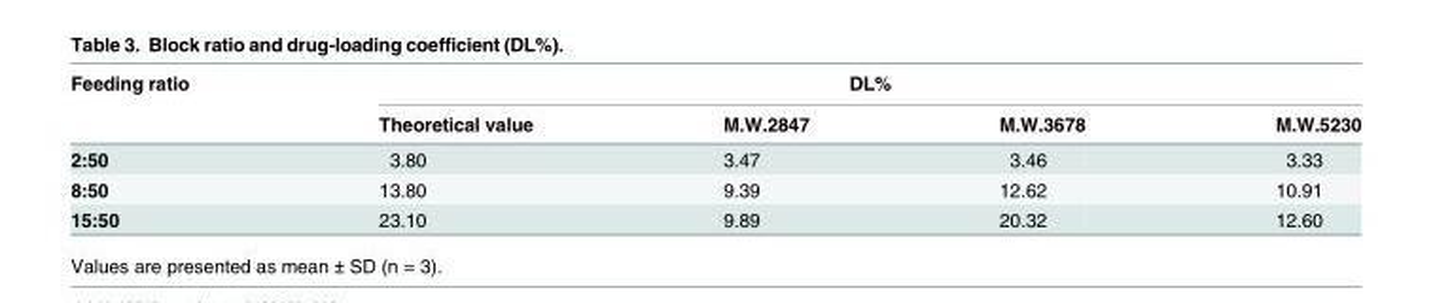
<table><thead><tr><td rowspan="2">Feeding ratio</td><td colspan="4">DL%</td></tr><tr><td>Theoretical value</td><td>M.W.2847</td><td>M.W.3678</td><td>M.W.5230</td></tr></thead><tbody><tr><td>2:50</td><td>3.80</td><td>3.47</td><td>3.46</td><td>3.33</td></tr><tr><td>8:50</td><td>13.80</td><td>9.39</td><td>12.62</td><td>10.91</td></tr><tr><td>15:50</td><td>23.10</td><td>9.89</td><td>20.32</td><td>12.60</td></tr></tbody></table>